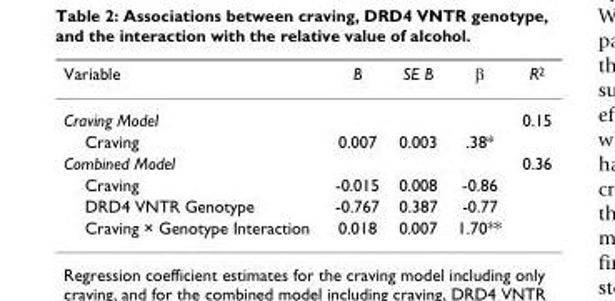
<table><thead><tr><td>Variable</td><td>B</td><td>SE B</td><td>β</td><td>R<sup>2</sup></td></tr></thead><tbody><tr><td>Craving Model</td><td></td><td></td><td></td><td>0.15</td></tr><tr><td>Craving</td><td>0.007</td><td>0.003</td><td>.38*</td><td></td></tr><tr><td>Combined Model</td><td></td><td></td><td></td><td>0.36</td></tr><tr><td>Craving</td><td>-0.015</td><td>0.008</td><td>-0.86</td><td></td></tr><tr><td>DRD4 VNTR Genotype</td><td>-0.767</td><td>0.387</td><td>-0.77</td><td></td></tr><tr><td>Craving × Genotype Interaction</td><td>0.018</td><td>0.007</td><td>1.70**</td><td></td></tr></tbody></table>